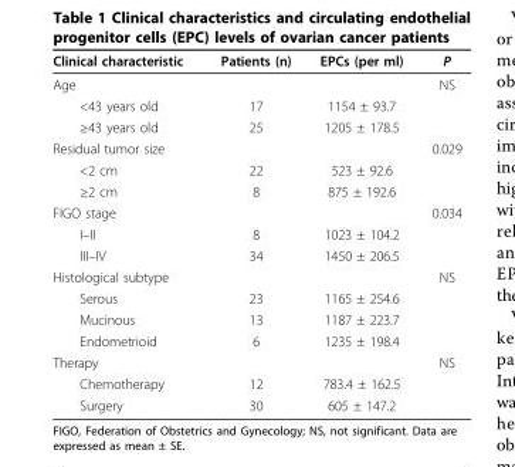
<table><thead><tr><td>Clinical characteristic</td><td>Patients (n)</td><td>EPCs (per ml)</td><td>P</td></tr></thead><tbody><tr><td>Age</td><td></td><td></td><td>NS</td></tr><tr><td>&lt;43 years old</td><td>17</td><td>1154 ± 93.7</td><td></td></tr><tr><td>≥43 years old</td><td>25</td><td>1205 ± 178.5</td><td></td></tr><tr><td>Residual tumor size</td><td></td><td></td><td>0.029</td></tr><tr><td>&lt;2 cm</td><td>22</td><td>523 ± 92.6</td><td></td></tr><tr><td>≥2 cm</td><td>8</td><td>875 ± 192.6</td><td></td></tr><tr><td>FIGO stage</td><td></td><td></td><td>0.034</td></tr><tr><td>I–II</td><td>8</td><td>1023 ± 104.2</td><td></td></tr><tr><td>III–IV</td><td>34</td><td>1450 ± 206.5</td><td></td></tr><tr><td>Histological subtype</td><td></td><td></td><td>NS</td></tr><tr><td>Serous</td><td>23</td><td>1165 ± 254.6</td><td></td></tr><tr><td>Mucinous</td><td>13</td><td>1187 ± 223.7</td><td></td></tr><tr><td>Endometrioid</td><td>6</td><td>1235 ± 198.4</td><td></td></tr><tr><td>Therapy</td><td></td><td></td><td>NS</td></tr><tr><td>Chemotherapy</td><td>12</td><td>783.4 ± 162.5</td><td></td></tr><tr><td>Surgery</td><td>30</td><td>605 ± 147.2</td><td></td></tr></tbody></table>